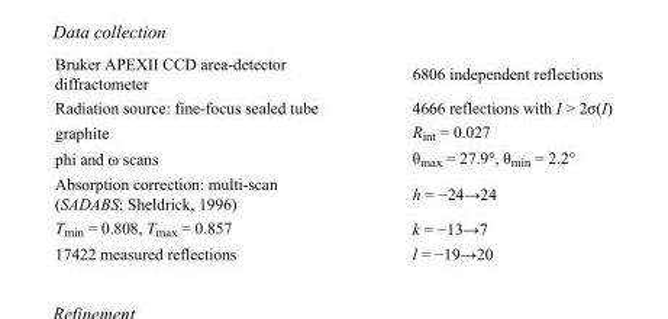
<table><tbody><tr><td>Bruker APEXII CCD area-detector diffractometer</td><td>6806 independent reflections</td></tr><tr><td>Radiation source: fine-focus sealed tube</td><td>4666 reflections with I &gt; 2σ(I)</td></tr><tr><td>graphite</td><td>R<sub>int</sub> = 0.027</td></tr><tr><td>phi and ω scans</td><td>θ<sub>max</sub> = 27.9°, θ<sub>min</sub> = 2.2°</td></tr><tr><td>Absorption correction: multi-scan (SADABS; Sheldrick, 1996)</td><td>h = −24→24</td></tr><tr><td>T<sub>min</sub> = 0.808, T<sub>max</sub> = 0.857</td><td>k = −13→7</td></tr><tr><td>17422 measured reflections</td><td>l = −19→20</td></tr></tbody></table>